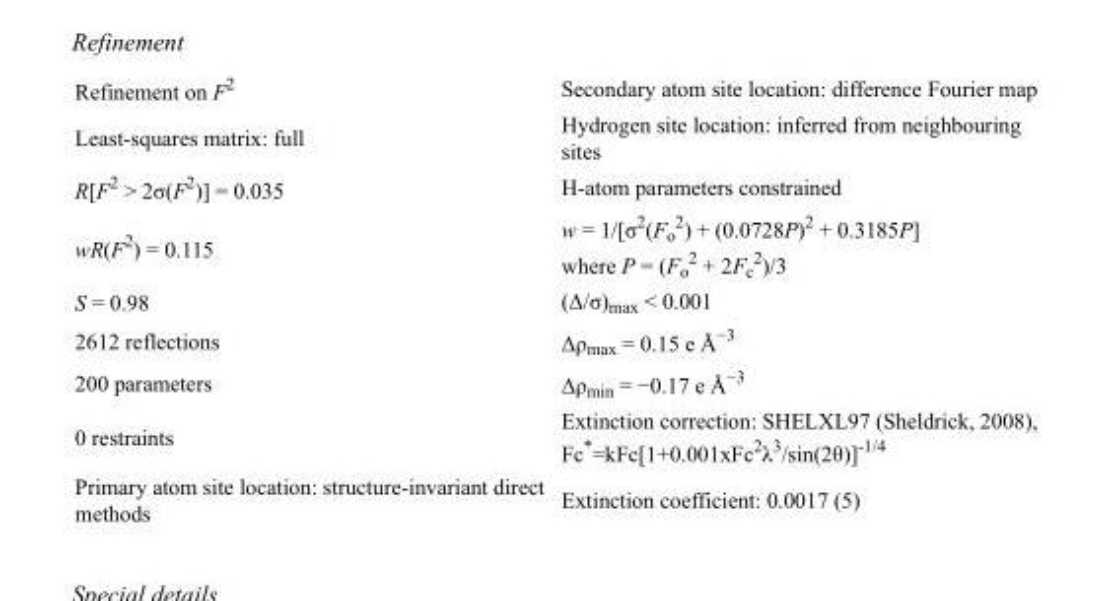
<table><tbody><tr><td>Refinement on F<sup>2</sup></td><td>Secondary atom site location: difference Fourier map</td></tr><tr><td>Least-squares matrix: full</td><td>Hydrogen site location: inferred from neighbouring sites</td></tr><tr><td>R[F<sup>2</sup> &gt; 2σ(F<sup>2</sup>)] = 0.035</td><td>H-atom parameters constrained</td></tr><tr><td>wR(F<sup>2</sup>) = 0.115</td><td>w = 1/[σ<sup>2</sup>(F<sub>o</sub> <sup>2</sup>) + (0.0728P)<sup>2</sup> + 0.3185P] where P = (F<sub>o</sub> <sup>2</sup> + 2F<sub>c</sub> <sup>2</sup>)/3</td></tr><tr><td>S = 0.98</td><td>(Δ/σ)<sub>max</sub> &lt; 0.001</td></tr><tr><td>2612 reflections</td><td>Δρ<sub>max</sub> = 0.15 e Å<sup>−3</sup></td></tr><tr><td>200 parameters</td><td>Δρ<sub>min</sub> = −0.17 e Å<sup>−3</sup></td></tr><tr><td>0 restraints</td><td>Extinction correction: SHELXL97 (Sheldrick, 2008), Fc*=kFc[1+0.001xFc<sup>2</sup>λ<sup>3</sup>/sin(2θ)]<sup>-1/4</sup></td></tr><tr><td>Primary atom site location: structure-invariant direct methods</td><td>Extinction coefficient: 0.0017 (5)</td></tr></tbody></table>